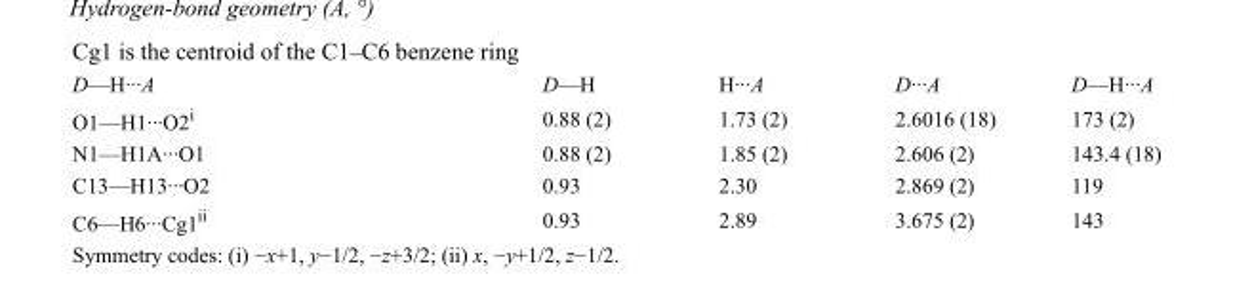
<table><tbody><tr><td>D—H···A</td><td>D—H</td><td>H···A</td><td>D···A</td><td>D—H···A</td></tr><tr><td>O1—H1···O2<sup>i</sup></td><td>0.88 (2)</td><td>1.73 (2)</td><td>2.6016 (18)</td><td>173 (2)</td></tr><tr><td>N1—H1A···O1</td><td>0.88 (2)</td><td>1.85 (2)</td><td>2.606 (2)</td><td>143.4 (18)</td></tr><tr><td>C13—H13···O2</td><td>0.93</td><td>2.30</td><td>2.869 (2)</td><td>119</td></tr><tr><td>C6—H6···Cg1<sup>ii</sup></td><td>0.93</td><td>2.89</td><td>3.675 (2)</td><td>143</td></tr></tbody></table>